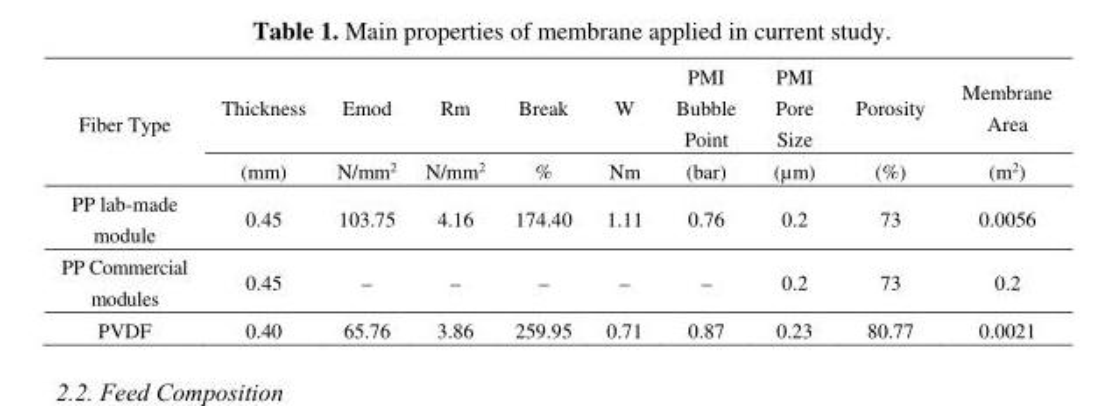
<table><thead><tr><td rowspan="2">Fiber Type</td><td rowspan="2">Thickness (mm)</td><td rowspan="2">Emod N/mm<sup>2</sup></td><td rowspan="2">Rm N/mm<sup>2</sup></td><td rowspan="2">Break %</td><td rowspan="2">W Nm</td><td rowspan="2">PMI Bubble Point (bar)</td><td rowspan="2">PMI Pore Size (µm)</td><td rowspan="2">Porosity (%)</td><td rowspan="2">Membrane Area (m<sup>2</sup>)</td></tr><tr></tr></thead><tbody><tr><td>PP lab-made module</td><td>0.45</td><td>103.75</td><td>4.16</td><td>174.40</td><td>1.11</td><td>0.76</td><td>0.2</td><td>73</td><td>0.0056</td></tr><tr><td>PP Commercial modules</td><td>0.45</td><td>–</td><td>–</td><td>–</td><td>–</td><td>–</td><td>0.2</td><td>73</td><td>0.2</td></tr><tr><td>PVDF</td><td>0.40</td><td>65.76</td><td>3.86</td><td>259.95</td><td>0.71</td><td>0.87</td><td>0.23</td><td>80.77</td><td>0.0021</td></tr></tbody></table>